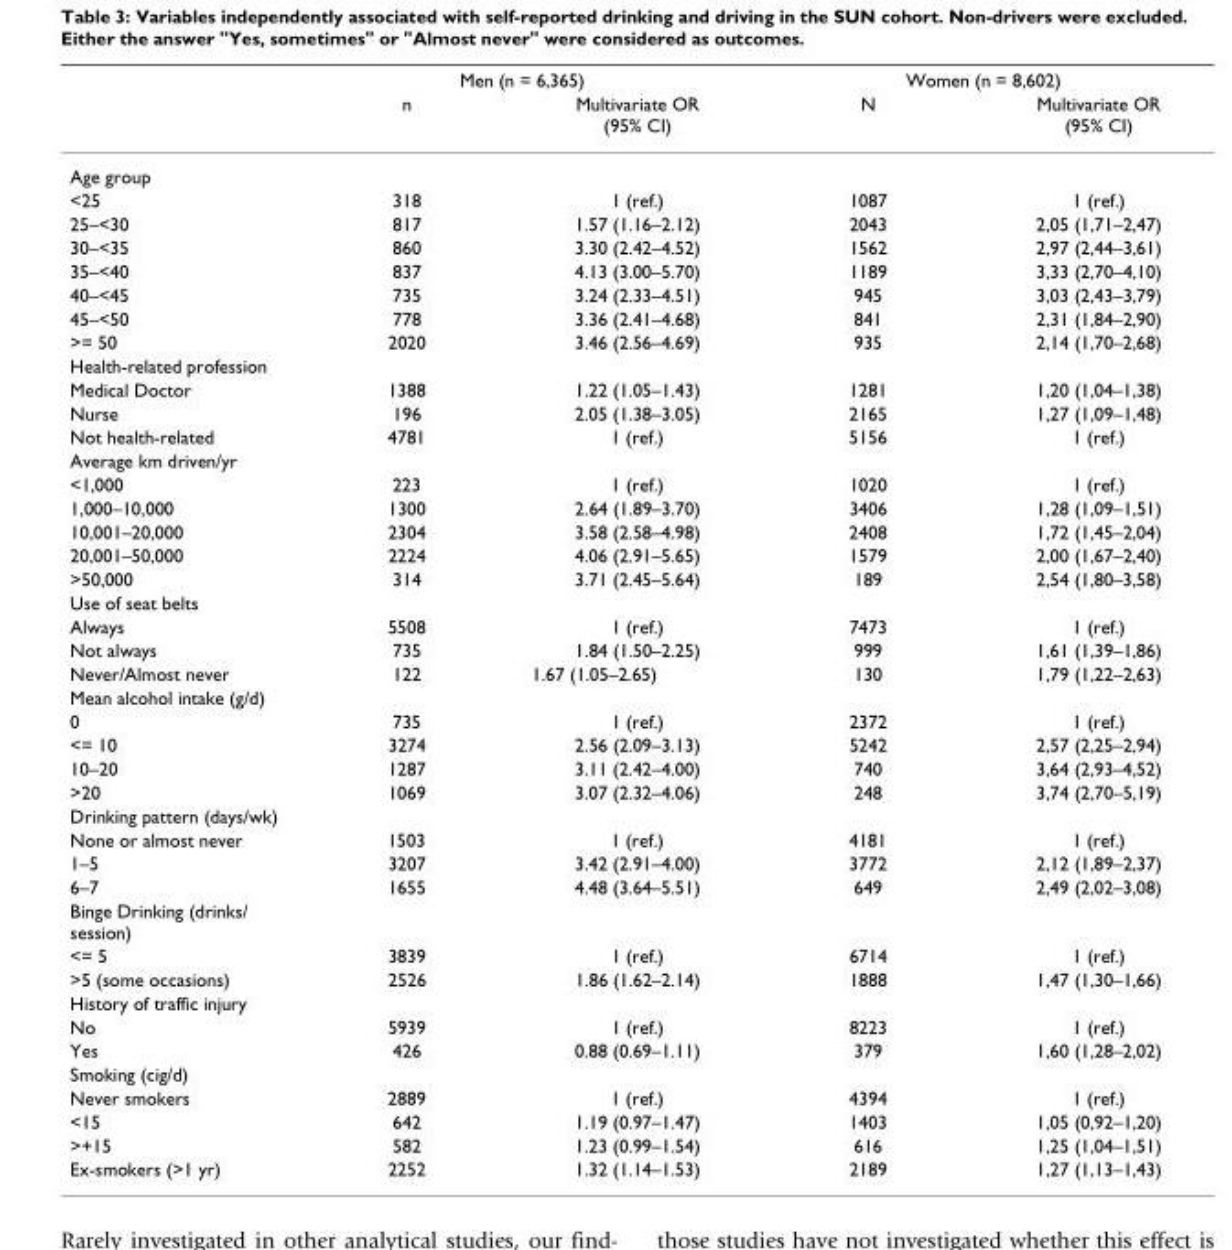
<table><thead><tr><td rowspan="2"></td><td colspan="2">Men (n = 6,365)</td><td colspan="2">Women (n = 8,602)</td></tr><tr><td>n</td><td>Multivariate OR (95% CI)</td><td>N</td><td>Multivariate OR (95% CI)</td></tr></thead><tbody><tr><td colspan="5">Age group</td></tr><tr><td>&lt;25</td><td>318</td><td>1 (ref.)</td><td>1087</td><td>1 (ref.)</td></tr><tr><td>25–&lt;30</td><td>817</td><td>1.57 (1.16–2.12)</td><td>2043</td><td>2,05 (1,71–2,47)</td></tr><tr><td>30–&lt;35</td><td>860</td><td>3.30 (2.42–4.52)</td><td>1562</td><td>2,97 (2,44–3,61)</td></tr><tr><td>35–&lt;40</td><td>837</td><td>4.13 (3.00–5.70)</td><td>1189</td><td>3,33 (2,70–4,10)</td></tr><tr><td>40–&lt;45</td><td>735</td><td>3.24 (2.33–4.51)</td><td>945</td><td>3,03 (2,43–3,79)</td></tr><tr><td>45–&lt;50</td><td>778</td><td>3.36 (2.41–4.68)</td><td>841</td><td>2,31 (1,84–2,90)</td></tr><tr><td>&gt;= 50</td><td>2020</td><td>3.46 (2.56–4.69)</td><td>935</td><td>2,14 (1,70–2,68)</td></tr><tr><td colspan="5">Health-related profession</td></tr><tr><td>Medical Doctor</td><td>1388</td><td>1.22 (1.05–1.43)</td><td>1281</td><td>1,20 (1,04–1,38)</td></tr><tr><td>Nurse</td><td>196</td><td>2.05 (1.38–3.05)</td><td>2165</td><td>1,27 (1,09–1,48)</td></tr><tr><td>Not health-related</td><td>4781</td><td>1 (ref.)</td><td>5156</td><td>1 (ref.)</td></tr><tr><td colspan="5">Average km driven/yr</td></tr><tr><td>&lt;1,000</td><td>223</td><td>1 (ref.)</td><td>1020</td><td>1 (ref.)</td></tr><tr><td>1,000–10,000</td><td>1300</td><td>2.64 (1.89–3.70)</td><td>3406</td><td>1,28 (1,09–1,51)</td></tr><tr><td>10,001–20,000</td><td>2304</td><td>3.58 (2.58–4.98)</td><td>2408</td><td>1,72 (1,45–2,04)</td></tr><tr><td>20,001–50,000</td><td>2224</td><td>4.06 (2.91–5.65)</td><td>1579</td><td>2,00 (1,67–2,40)</td></tr><tr><td>&gt;50,000</td><td>314</td><td>3.71 (2.45–5.64)</td><td>189</td><td>2,54 (1,80–3,58)</td></tr><tr><td colspan="5">Use of seat belts</td></tr><tr><td>Always</td><td>5508</td><td>1 (ref.)</td><td>7473</td><td>1 (ref.)</td></tr><tr><td>Not always</td><td>735</td><td>1.84 (1.50–2.25)</td><td>999</td><td>1,61 (1,39–1,86)</td></tr><tr><td>Never/Almost never</td><td>122</td><td>1.67 (1.05–2.65)</td><td>130</td><td>1,79 (1,22–2,63)</td></tr><tr><td colspan="5">Mean alcohol intake (g/d)</td></tr><tr><td>0</td><td>735</td><td>1 (ref.)</td><td>2372</td><td>1 (ref.)</td></tr><tr><td>&lt;= 10</td><td>3274</td><td>2.56 (2.09–3.13)</td><td>5242</td><td>2,57 (2,25–2,94)</td></tr><tr><td>10–20</td><td>1287</td><td>3.11 (2.42–4.00)</td><td>740</td><td>3,64 (2,93–4,52)</td></tr><tr><td>&gt;20</td><td>1069</td><td>3.07 (2.32–4.06)</td><td>248</td><td>3,74 (2,70–5,19)</td></tr><tr><td colspan="5">Drinking pattern (days/wk)</td></tr><tr><td>None or almost never</td><td>1503</td><td>1 (ref.)</td><td>4181</td><td>1 (ref.)</td></tr><tr><td>1–5</td><td>3207</td><td>3.42 (2.91–4.00)</td><td>3772</td><td>2,12 (1,89–2,37)</td></tr><tr><td>6–7</td><td>1655</td><td>4.48 (3.64–5.51)</td><td>649</td><td>2,49 (2,02–3,08)</td></tr><tr><td colspan="5">Binge Drinking (drinks/ session)</td></tr><tr><td>&lt;= 5</td><td>3839</td><td>1 (ref.)</td><td>6714</td><td>1 (ref.)</td></tr><tr><td>&gt;5 (some occasions)</td><td>2526</td><td>1.86 (1.62–2.14)</td><td>1888</td><td>1,47 (1,30–1,66)</td></tr><tr><td colspan="5">History of traffic injury</td></tr><tr><td>No</td><td>5939</td><td>1 (ref.)</td><td>8223</td><td>1 (ref.)</td></tr><tr><td>Yes</td><td>426</td><td>0.88 (0.69–1.11)</td><td>379</td><td>1,60 (1,28–2,02)</td></tr><tr><td colspan="5">Smoking (cig/d)</td></tr><tr><td>Never smokers</td><td>2889</td><td>1 (ref.)</td><td>4394</td><td>1 (ref.)</td></tr><tr><td>&lt;15</td><td>642</td><td>1.19 (0.97–1.47)</td><td>1403</td><td>1,05 (0,92–1,20)</td></tr><tr><td>&gt;+15</td><td>582</td><td>1.23 (0.99–1.54)</td><td>616</td><td>1,25 (1,04–1,51)</td></tr><tr><td>Ex-smokers (&gt;1 yr)</td><td>2252</td><td>1.32 (1.14–1.53)</td><td>2189</td><td>1,27 (1,13–1,43)</td></tr></tbody></table>